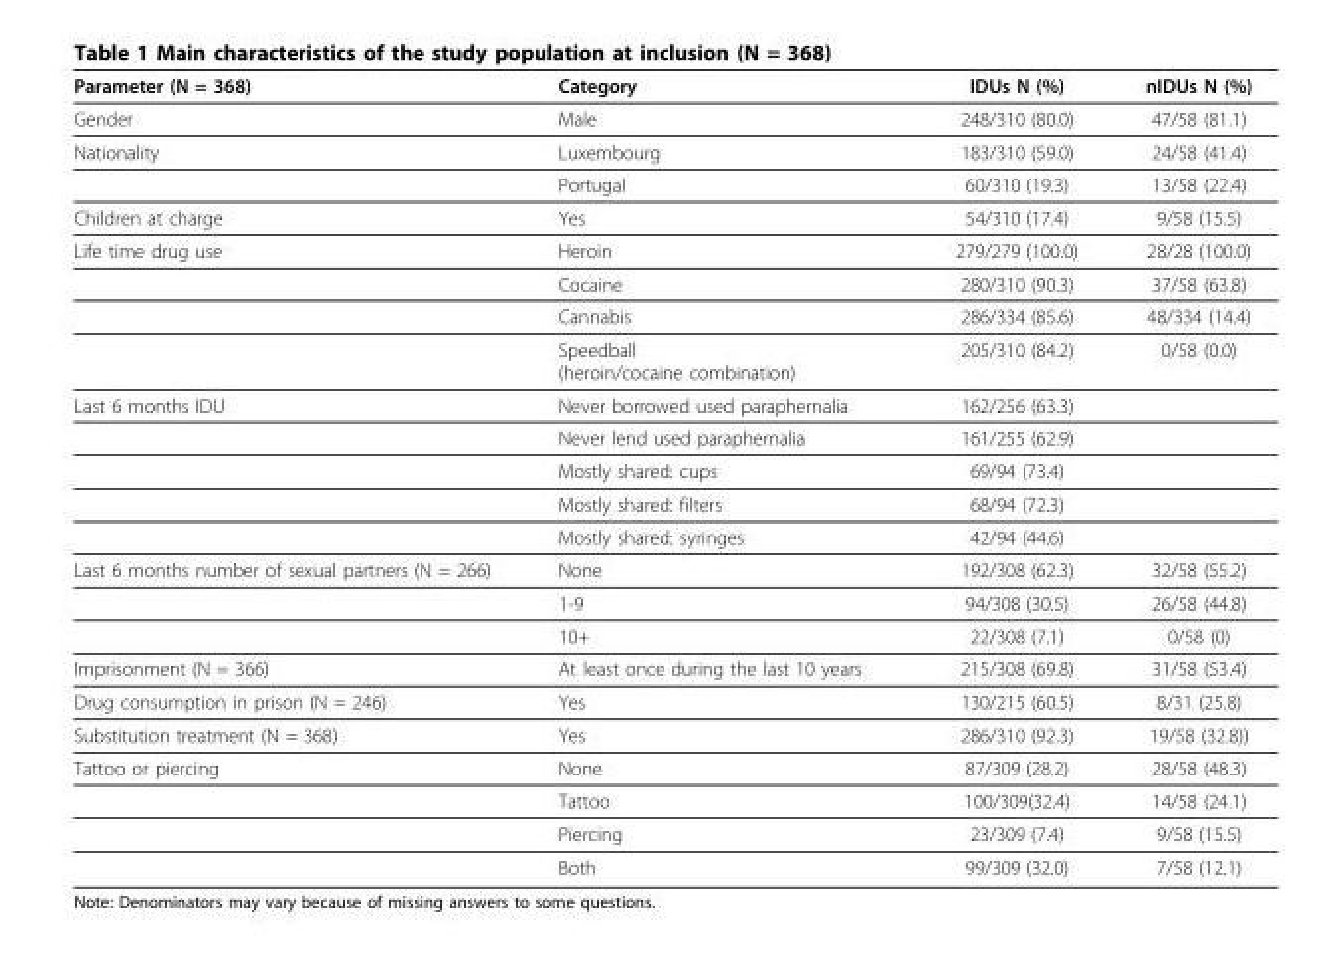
<table><thead><tr><td>Parameter (N = 368)</td><td>Category</td><td>IDUs N (%)</td><td>nIDUs N (%)</td></tr></thead><tbody><tr><td>Gender</td><td>Male</td><td>248/310 (80.0)</td><td>47/58 (81.1)</td></tr><tr><td rowspan="2">Nationality</td><td>Luxembourg</td><td>183/310 (59.0)</td><td>24/58 (41.4)</td></tr><tr><td>Portugal</td><td>60/310 (19.3)</td><td>13/58 (22.4)</td></tr><tr><td>Children at charge</td><td>Yes</td><td>54/310 (17.4)</td><td>9/58 (15.5)</td></tr><tr><td rowspan="4">Life time drug use</td><td>Heroin</td><td>279/279 (100.0)</td><td>28/28 (100.0)</td></tr><tr><td>Cocaine</td><td>280/310 (90.3)</td><td>37/58 (63.8)</td></tr><tr><td>Cannabis</td><td>286/334 (85.6)</td><td>48/334 (14.4)</td></tr><tr><td>Speedball (heroin/cocaine combination)</td><td>205/310 (84.2)</td><td>0/58 (0.0)</td></tr><tr><td rowspan="5">Last 6 months IDU</td><td>Never borrowed used paraphernalia</td><td>162/256 (63.3)</td><td></td></tr><tr><td>Never lend used paraphernalia</td><td>161/255 (62.9)</td><td></td></tr><tr><td>Mostly shared: cups</td><td>69/94 (73.4)</td><td></td></tr><tr><td>Mostly shared: filters</td><td>68/94 (72.3)</td><td></td></tr><tr><td>Mostly shared: syringes</td><td>42/94 (44.6)</td><td></td></tr><tr><td rowspan="3">Last 6 months number of sexual partners (N = 266)</td><td>None</td><td>192/308 (62.3)</td><td>32/58 (55.2)</td></tr><tr><td>1-9</td><td>94/308 (30.5)</td><td>26/58 (44.8)</td></tr><tr><td>10+</td><td>22/308 (7.1)</td><td>0/58 (0)</td></tr><tr><td>Imprisonment (N = 366)</td><td>At least once during the last 10 years</td><td>215/308 (69.8)</td><td>31/58 (53.4)</td></tr><tr><td>Drug consumption in prison (N = 246)</td><td>Yes</td><td>130/215 (60.5)</td><td>8/31 (25.8)</td></tr><tr><td>Substitution treatment (N = 368)</td><td>Yes</td><td>286/310 (92.3)</td><td>19/58 (32.8))</td></tr><tr><td rowspan="4">Tattoo or piercing</td><td>None</td><td>87/309 (28.2)</td><td>28/58 (48.3)</td></tr><tr><td>Tattoo</td><td>100/309(32.4)</td><td>14/58 (24.1)</td></tr><tr><td>Piercing</td><td>23/309 (7.4)</td><td>9/58 (15.5)</td></tr><tr><td>Both</td><td>99/309 (32.0)</td><td>7/58 (12.1)</td></tr></tbody></table>